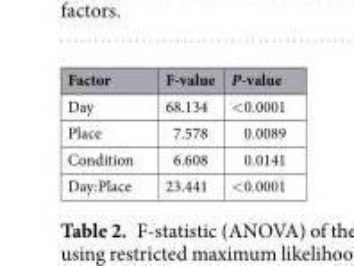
<table><thead><tr><td>Factor</td><td>F-value</td><td>P-value</td></tr></thead><tbody><tr><td>Day</td><td>68.134</td><td>&lt;0.0001</td></tr><tr><td>Place</td><td>7.578</td><td>0.0089</td></tr><tr><td>Condition</td><td>6.608</td><td>0.0141</td></tr><tr><td>Day:Place</td><td>23.441</td><td>&lt;0.0001</td></tr></tbody></table>